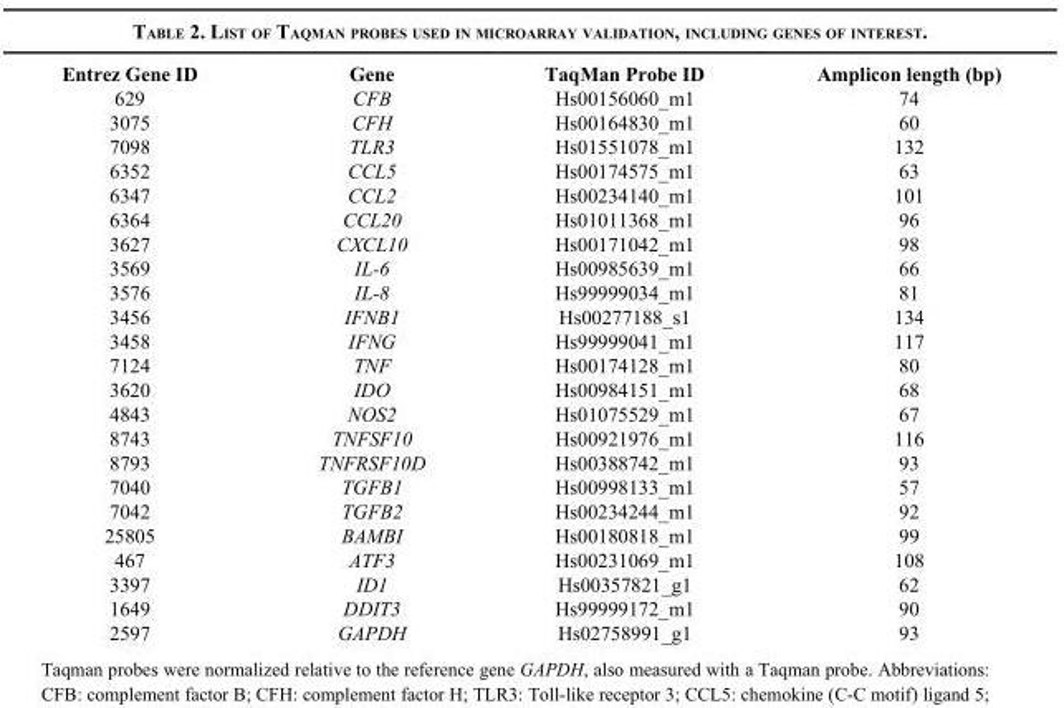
<table><thead><tr><td>Entrez Gene ID</td><td>Gene</td><td>TaqMan Probe ID</td><td>Amplicon length (bp)</td></tr></thead><tbody><tr><td>629</td><td>CFB</td><td>Hs00156060_m1</td><td>74</td></tr><tr><td>3075</td><td>CFH</td><td>Hs00164830_m1</td><td>60</td></tr><tr><td>7098</td><td>TLR3</td><td>Hs01551078_m1</td><td>132</td></tr><tr><td>6352</td><td>CCL5</td><td>Hs00174575_m1</td><td>63</td></tr><tr><td>6347</td><td>CCL2</td><td>Hs00234140_m1</td><td>101</td></tr><tr><td>6364</td><td>CCL20</td><td>Hs01011368_m1</td><td>96</td></tr><tr><td>3627</td><td>CXCL10</td><td>Hs00171042_m1</td><td>98</td></tr><tr><td>3569</td><td>IL-6</td><td>Hs00985639_m1</td><td>66</td></tr><tr><td>3576</td><td>IL-8</td><td>Hs99999034_m1</td><td>81</td></tr><tr><td>3456</td><td>IFNB1</td><td>Hs00277188_s1</td><td>134</td></tr><tr><td>3458</td><td>IFNG</td><td>Hs99999041_m1</td><td>117</td></tr><tr><td>7124</td><td>TNF</td><td>Hs00174128_m1</td><td>80</td></tr><tr><td>3620</td><td>IDO</td><td>Hs00984151_m1</td><td>68</td></tr><tr><td>4843</td><td>NOS2</td><td>Hs01075529_m1</td><td>67</td></tr><tr><td>8743</td><td>TNFSF10</td><td>Hs00921976_m1</td><td>116</td></tr><tr><td>8793</td><td>TNFRSF10D</td><td>Hs00388742_m1</td><td>93</td></tr><tr><td>7040</td><td>TGFB1</td><td>Hs00998133_m1</td><td>57</td></tr><tr><td>7042</td><td>TGFB2</td><td>Hs00234244_m1</td><td>92</td></tr><tr><td>25805</td><td>BAMBI</td><td>Hs00180818_m1</td><td>99</td></tr><tr><td>467</td><td>ATF3</td><td>Hs00231069_m1</td><td>108</td></tr><tr><td>3397</td><td>ID1</td><td>Hs00357821_g1</td><td>62</td></tr><tr><td>1649</td><td>DDIT3</td><td>Hs99999172_m1</td><td>90</td></tr><tr><td>2597</td><td>GAPDH</td><td>Hs02758991_g1</td><td>93</td></tr></tbody></table>